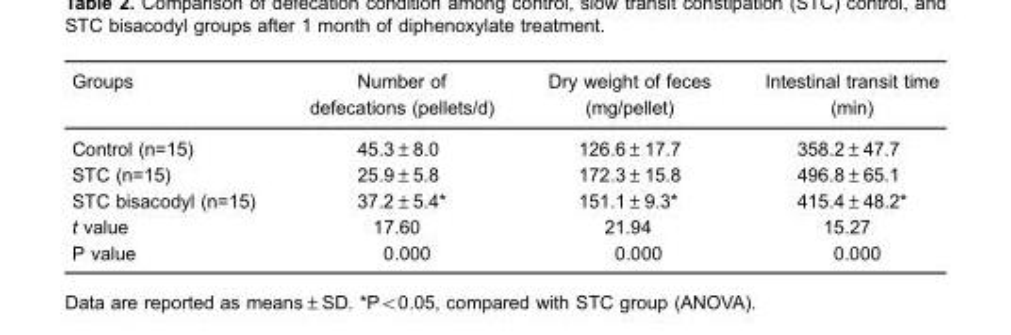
<table><thead><tr><td>Groups</td><td>Number of defecations (pellets/d)</td><td>Dry weight of feces (mg/pellet)</td><td>Intestinal transit time (min)</td></tr></thead><tbody><tr><td>Control (n=15)</td><td>45.3±8.0</td><td>126.6±17.7</td><td>358.2±47.7</td></tr><tr><td>STC (n=15)</td><td>25.9±5.8</td><td>172.3±15.8</td><td>496.8±65.1</td></tr><tr><td>STC bisacodyl (n=15)</td><td>37.2±5.4*</td><td>151.1±9.3*</td><td>415.4±48.2*</td></tr><tr><td>t value</td><td>17.60</td><td>21.94</td><td>15.27</td></tr><tr><td>P value</td><td>0.000</td><td>0.000</td><td>0.000</td></tr></tbody></table>